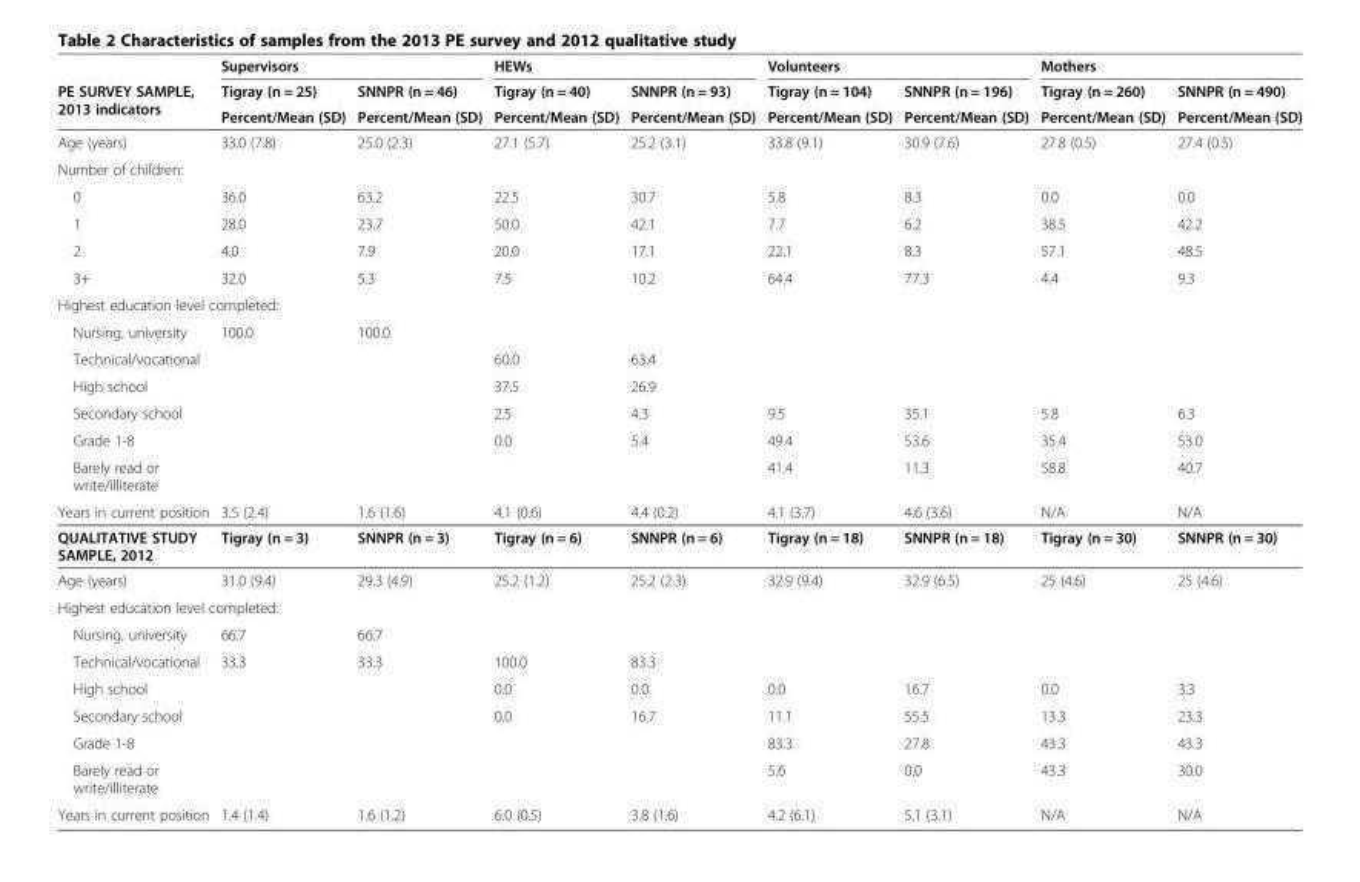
<table><thead><tr><td rowspan="3">PE SURVEY SAMPLE, 2013 indicators</td><td colspan="2">Supervisors</td><td colspan="2">HEWs</td><td colspan="2">Volunteers</td><td colspan="2">Mothers</td></tr><tr><td rowspan="2">Tigray (n = 25) Percent/Mean (SD)</td><td rowspan="2">SNNPR (n = 46) Percent/Mean (SD)</td><td rowspan="2">Tigray (n = 40) Percent/Mean (SD)</td><td rowspan="2">SNNPR (n = 93) Percent/Mean (SD)</td><td rowspan="2">Tigray (n = 104) Percent/Mean (SD)</td><td rowspan="2">SNNPR (n = 196) Percent/Mean (SD)</td><td rowspan="2">Tigray (n = 260) Percent/Mean (SD)</td><td rowspan="2">SNNPR (n = 490) Percent/Mean (SD)</td></tr><tr></tr></thead><tbody><tr><td>Age (years)</td><td>33.0 (7.8)</td><td>25.0 (2.3)</td><td>27.1 (5.7)</td><td>25.2 (3.1)</td><td>33.8 (9.1)</td><td>30.9 (7.6)</td><td>27.8 (0.5)</td><td>27.4 (0.5)</td></tr><tr><td colspan="9">Number of children:</td></tr><tr><td>0</td><td>36.0</td><td>63.2</td><td>22.5</td><td>30.7</td><td>5.8</td><td>8.3</td><td>0.0</td><td>0.0</td></tr><tr><td>1</td><td>28.0</td><td>23.7</td><td>50.0</td><td>42.1</td><td>7.7</td><td>6.2</td><td>38.5</td><td>42.2</td></tr><tr><td>2</td><td>4.0</td><td>7.9</td><td>20.0</td><td>17.1</td><td>22.1</td><td>8.3</td><td>57.1</td><td>48.5</td></tr><tr><td>3+</td><td>32.0</td><td>5.3</td><td>7.5</td><td>10.2</td><td>64.4</td><td>77.3</td><td>4.4</td><td>9.3</td></tr><tr><td colspan="9">Highest education level completed:</td></tr><tr><td>Nursing, university</td><td>100.0</td><td>100.0</td><td></td><td></td><td></td><td></td><td></td><td></td></tr><tr><td>Technical/vocational</td><td></td><td></td><td>60.0</td><td>63.4</td><td></td><td></td><td></td><td></td></tr><tr><td>High school</td><td></td><td></td><td>37.5</td><td>26.9</td><td></td><td></td><td></td><td></td></tr><tr><td>Secondary school</td><td></td><td></td><td>2.5</td><td>4.3</td><td>9.5</td><td>35.1</td><td>5.8</td><td>6.3</td></tr><tr><td>Grade 1-8</td><td></td><td></td><td>0.0</td><td>5.4</td><td>49.4</td><td>53.6</td><td>35.4</td><td>53.0</td></tr><tr><td>Barely read or write/illiterate</td><td></td><td></td><td></td><td></td><td>41.4</td><td>11.3</td><td>58.8</td><td>40.7</td></tr><tr><td>Years in current position</td><td>3.5 (2.4)</td><td>1.6 (1.6)</td><td>4.1 (0.6)</td><td>4.4 (0.2)</td><td>4.1 (3.7)</td><td>4.6 (3.6)</td><td>N/A</td><td>N/A</td></tr><tr><td>QUALITATIVE STUDY SAMPLE, 2012</td><td>Tigray (n = 3)</td><td>SNNPR (n = 3)</td><td>Tigray (n = 6)</td><td>SNNPR (n = 6)</td><td>Tigray (n = 18)</td><td>SNNPR (n = 18)</td><td>Tigray (n = 30)</td><td>SNNPR (n = 30)</td></tr><tr><td>Age (years)</td><td>31.0 (9.4)</td><td>29.3 (4.9)</td><td>25.2 (1.2)</td><td>25.2 (2.3)</td><td>32.9 (9.4)</td><td>32.9 (6.5)</td><td>25 (4.6)</td><td>25 (4.6)</td></tr><tr><td colspan="9">Highest education level completed:</td></tr><tr><td>Nursing, university</td><td>66.7</td><td>66.7</td><td></td><td></td><td></td><td></td><td></td><td></td></tr><tr><td>Technical/vocational</td><td>33.3</td><td>33.3</td><td>100.0</td><td>83.3</td><td></td><td></td><td></td><td></td></tr><tr><td>High school</td><td></td><td></td><td>0.0</td><td>0.0</td><td>0.0</td><td>16.7</td><td>0.0</td><td>3.3</td></tr><tr><td>Secondary school</td><td></td><td></td><td>0.0</td><td>16.7</td><td>11.1</td><td>55.5</td><td>13.3</td><td>23.3</td></tr><tr><td>Grade 1-8</td><td></td><td></td><td></td><td></td><td>83.3</td><td>27.8</td><td>43.3</td><td>43.3</td></tr><tr><td>Barely read or write/illiterate</td><td></td><td></td><td></td><td></td><td>5.6</td><td>0.0</td><td>43.3</td><td>30.0</td></tr><tr><td>Years in current position</td><td>1.4 (1.4)</td><td>1.6 (1.2)</td><td>6.0 (0.5)</td><td>3.8 (1.6)</td><td>4.2 (6.1)</td><td>5.1 (3.1)</td><td>N/A</td><td>N/A</td></tr></tbody></table>